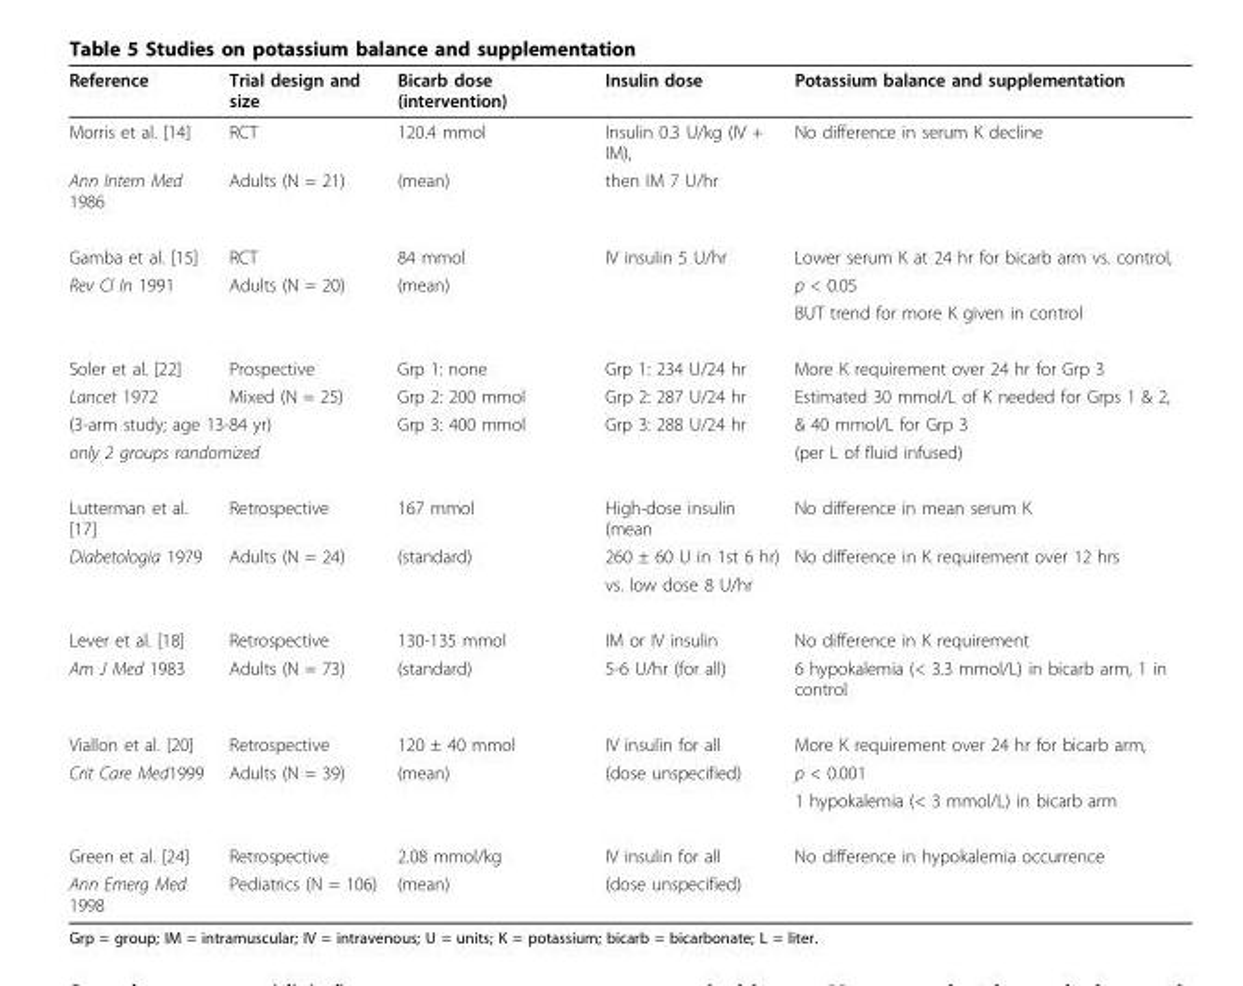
<table><thead><tr><td>Reference</td><td>Trial design and size</td><td>Bicarb dose (intervention)</td><td>Insulin dose</td><td>Potassium balance and supplementation</td></tr></thead><tbody><tr><td>Morris et al. [14]</td><td>RCT</td><td>120.4 mmol</td><td>Insulin 0.3 U/kg (IV + IM),</td><td>No difference in serum K decline</td></tr><tr><td>Ann Intern Med 1986</td><td>Adults (N = 21)</td><td>(mean)</td><td>then IM 7 U/hr</td><td></td></tr><tr><td>Gamba et al. [15]</td><td>RCT</td><td>84 mmol</td><td>IV insulin 5 U/hr</td><td>Lower serum K at 24 hr for bicarb arm vs. control,</td></tr><tr><td rowspan="2">Rev Cl In 1991</td><td>Adults (N = 20)</td><td>(mean)</td><td></td><td>p &lt; 0.05</td></tr><tr><td></td><td></td><td></td><td>BUT trend for more K given in control</td></tr><tr><td>Soler et al. [22]</td><td>Prospective</td><td>Grp 1: none</td><td>Grp 1: 234 U/24 hr</td><td>More K requirement over 24 hr for Grp 3</td></tr><tr><td>Lancet 1972</td><td>Mixed (N = 25)</td><td>Grp 2: 200 mmol</td><td>Grp 2: 287 U/24 hr</td><td>Estimated 30 mmol/L of K needed for Grps 1 &amp; 2,</td></tr><tr><td colspan="2">(3-arm study; age 13-84 yr)</td><td>Grp 3: 400 mmol</td><td>Grp 3: 288 U/24 hr</td><td>&amp; 40 mmol/L for Grp 3</td></tr><tr><td colspan="2">only 2 groups randomized</td><td></td><td></td><td>(per L of fluid infused)</td></tr><tr><td>Lutterman et al. [17]</td><td>Retrospective</td><td>167 mmol</td><td>High-dose insulin (mean</td><td>No difference in mean serum K</td></tr><tr><td rowspan="2">Diabetologia 1979</td><td>Adults (N = 24)</td><td>(standard)</td><td>260 ± 60 U in 1st 6 hr)</td><td>No difference in K requirement over 12 hrs</td></tr><tr><td></td><td></td><td>vs. low dose 8 U/hr</td><td></td></tr><tr><td>Lever et al. [18]</td><td>Retrospective</td><td>130-135 mmol</td><td>IM or IV insulin</td><td>No difference in K requirement</td></tr><tr><td>Am J Med 1983</td><td>Adults (N = 73)</td><td>(standard)</td><td>5-6 U/hr (for all)</td><td>6 hypokalemia (&lt; 3.3 mmol/L) in bicarb arm, 1 in control</td></tr><tr><td>Viallon et al. [20]</td><td>Retrospective</td><td>120 ± 40 mmol</td><td>IV insulin for all</td><td>More K requirement over 24 hr for bicarb arm,</td></tr><tr><td rowspan="2">Crit Care Med1999</td><td>Adults (N = 39)</td><td>(mean)</td><td>(dose unspecified)</td><td>p &lt; 0.001</td></tr><tr><td></td><td></td><td></td><td>1 hypokalemia (&lt; 3 mmol/L) in bicarb arm</td></tr><tr><td>Green et al. [24]</td><td>Retrospective</td><td>2.08 mmol/kg</td><td>IV insulin for all</td><td>No difference in hypokalemia occurrence</td></tr><tr><td>Ann Emerg Med 1998</td><td>Pediatrics (N = 106)</td><td>(mean)</td><td>(dose unspecified)</td><td></td></tr></tbody></table>